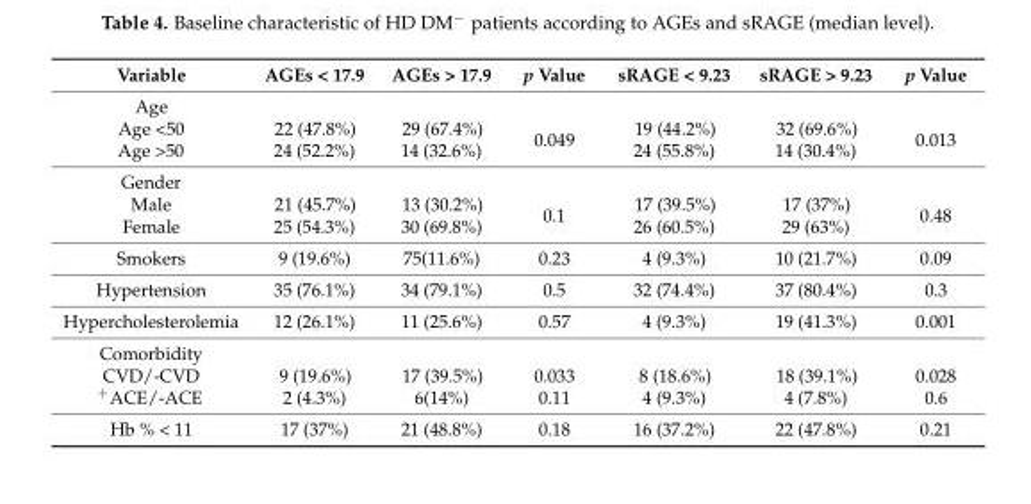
<table><thead><tr><td>Variable</td><td>AGEs &lt; 17.9</td><td>AGEs &gt; 17.9</td><td>p Value</td><td>sRAGE &lt; 9.23</td><td>sRAGE &gt; 9.23</td><td>p Value</td></tr></thead><tbody><tr><td colspan="7">Age</td></tr><tr><td>Age &lt;50 Age &gt;50</td><td>22 (47.8%) 24 (52.2%)</td><td>29 (67.4%) 14 (32.6%)</td><td>0.049</td><td>19 (44.2%) 24 (55.8%)</td><td>32 (69.6%) 14 (30.4%)</td><td>0.013</td></tr><tr><td colspan="7">Gender</td></tr><tr><td>Male Female</td><td>21 (45.7%) 25 (54.3%)</td><td>13 (30.2%) 30 (69.8%)</td><td>0.1</td><td>17 (39.5%) 26 (60.5%)</td><td>17 (37%) 29 (63%)</td><td>0.48</td></tr><tr><td>Smokers</td><td>9 (19.6%)</td><td>75(11.6%)</td><td>0.23</td><td>4 (9.3%)</td><td>10 (21.7%)</td><td>0.09</td></tr><tr><td>Hypertension</td><td>35 (76.1%)</td><td>34 (79.1%)</td><td>0.5</td><td>32 (74.4%)</td><td>37 (80.4%)</td><td>0.3</td></tr><tr><td>Hypercholesterolemia</td><td>12 (26.1%)</td><td>11 (25.6%)</td><td>0.57</td><td>4 (9.3%)</td><td>19 (41.3%)</td><td>0.001</td></tr><tr><td colspan="7">Comorbidity</td></tr><tr><td>CVD/-CVD <sup>+</sup>ACE/-ACE</td><td>9 (19.6%) 2 (4.3%)</td><td>17 (39.5%) 6(14%)</td><td>0.033 0.11</td><td>8 (18.6%) 4 (9.3%)</td><td>18 (39.1%) 4 (7.8%)</td><td>0.028 0.6</td></tr><tr><td>Hb % &lt; 11</td><td>17 (37%)</td><td>21 (48.8%)</td><td>0.18</td><td>16 (37.2%)</td><td>22 (47.8%)</td><td>0.21</td></tr></tbody></table>